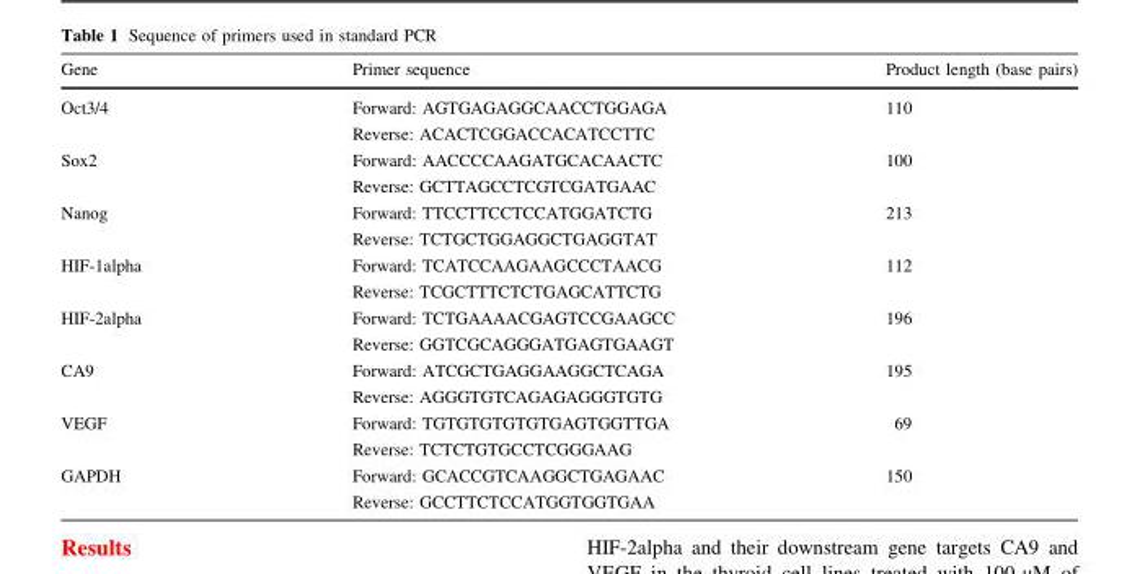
<table><thead><tr><td>Gene</td><td>Primer sequence</td><td>Product length (base pairs)</td></tr></thead><tbody><tr><td>Oct3/4</td><td>Forward: AGTGAGAGGCAACCTGGAGA Reverse: ACACTCGGACCACATCCTTC</td><td>110</td></tr><tr><td>Sox2</td><td>Forward: AACCCCAAGATGCACAACTC Reverse: GCTTAGCCTCGTCGATGAAC</td><td>100</td></tr><tr><td>Nanog</td><td>Forward: TTCCTTCCTCCATGGATCTG Reverse: TCTGCTGGAGGCTGAGGTAT</td><td>213</td></tr><tr><td>HIF-1alpha</td><td>Forward: TCATCCAAGAAGCCCTAACG Reverse: TCGCTTTCTCTGAGCATTCTG</td><td>112</td></tr><tr><td>HIF-2alpha</td><td>Forward: TCTGAAAACGAGTCCGAAGCC Reverse: GGTCGCAGGGATGAGTGAAGT</td><td>196</td></tr><tr><td>CA9</td><td>Forward: ATCGCTGAGGAAGGCTCAGA Reverse: AGGGTGTCAGAGAGGGTGTG</td><td>195</td></tr><tr><td>VEGF</td><td>Forward: TGTGTGTGTGTGAGTGGTTGA Reverse: TCTCTGTGCCTCGGGAAG</td><td>69</td></tr><tr><td>GAPDH</td><td>Forward: GCACCGTCAAGGCTGAGAAC Reverse: GCCTTCTCCATGGTGGTGAA</td><td>150</td></tr></tbody></table>